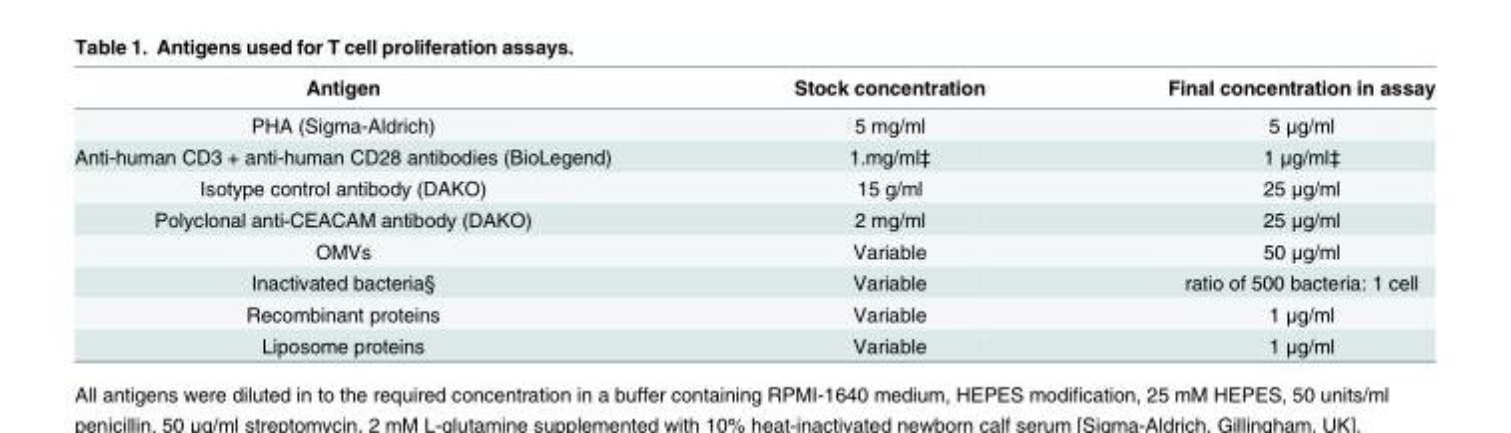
<table><thead><tr><td>Antigen</td><td>Stock concentration</td><td>Final concentration in assay</td></tr></thead><tbody><tr><td>PHA (Sigma-Aldrich)</td><td>5 mg/ml</td><td>5 μg/ml</td></tr><tr><td>Anti-human CD3 + anti-human CD28 antibodies (BioLegend)</td><td>1.mg/ml‡</td><td>1 μg/ml‡</td></tr><tr><td>Isotype control antibody (DAKO)</td><td>15 g/ml</td><td>25 μg/ml</td></tr><tr><td>Polyclonal anti-CEACAM antibody (DAKO)</td><td>2 mg/ml</td><td>25 μg/ml</td></tr><tr><td>OMVs</td><td>Variable</td><td>50 μg/ml</td></tr><tr><td>Inactivated bacteria§</td><td>Variable</td><td>ratio of 500 bacteria: 1 cell</td></tr><tr><td>Recombinant proteins</td><td>Variable</td><td>1 μg/ml</td></tr><tr><td>Liposome proteins</td><td>Variable</td><td>1 μg/ml</td></tr></tbody></table>